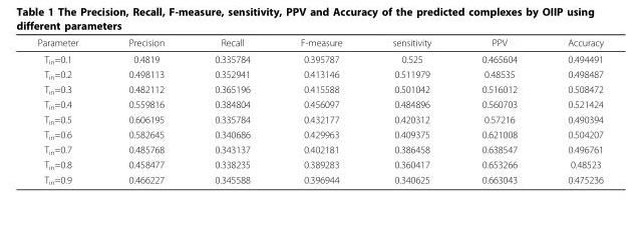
<table><thead><tr><td>Parameter</td><td>Precision</td><td>Recall</td><td>F-measure</td><td>sensitivity</td><td>PPV</td><td>Accuracy</td></tr></thead><tbody><tr><td>T<sub>in</sub>=0.1</td><td>0.4819</td><td>0.335784</td><td>0.395787</td><td>0.525</td><td>0.465604</td><td>0.494491</td></tr><tr><td>T<sub>in</sub>=0.2</td><td>0.498113</td><td>0.352941</td><td>0.413146</td><td>0.511979</td><td>0.48535</td><td>0.498487</td></tr><tr><td>T<sub>in</sub>=0.3</td><td>0.482112</td><td>0.365196</td><td>0.415588</td><td>0.501042</td><td>0.516012</td><td>0.508472</td></tr><tr><td>T<sub>in</sub>=0.4</td><td>0.559816</td><td>0.384804</td><td>0.456097</td><td>0.484896</td><td>0.560703</td><td>0.521424</td></tr><tr><td>T<sub>in</sub>=0.5</td><td>0.606195</td><td>0.335784</td><td>0.432177</td><td>0.420312</td><td>0.57216</td><td>0.490394</td></tr><tr><td>T<sub>in</sub>=0.6</td><td>0.582645</td><td>0.340686</td><td>0.429963</td><td>0.409375</td><td>0.621008</td><td>0.504207</td></tr><tr><td>T<sub>in</sub>=0.7</td><td>0.485768</td><td>0.343137</td><td>0.402181</td><td>0.386458</td><td>0.638547</td><td>0.496761</td></tr><tr><td>T<sub>in</sub>=0.8</td><td>0.458477</td><td>0.338235</td><td>0.389283</td><td>0.360417</td><td>0.653266</td><td>0.48523</td></tr><tr><td>T<sub>in</sub>=0.9</td><td>0.466227</td><td>0.345588</td><td>0.396944</td><td>0.340625</td><td>0.663043</td><td>0.475236</td></tr></tbody></table>